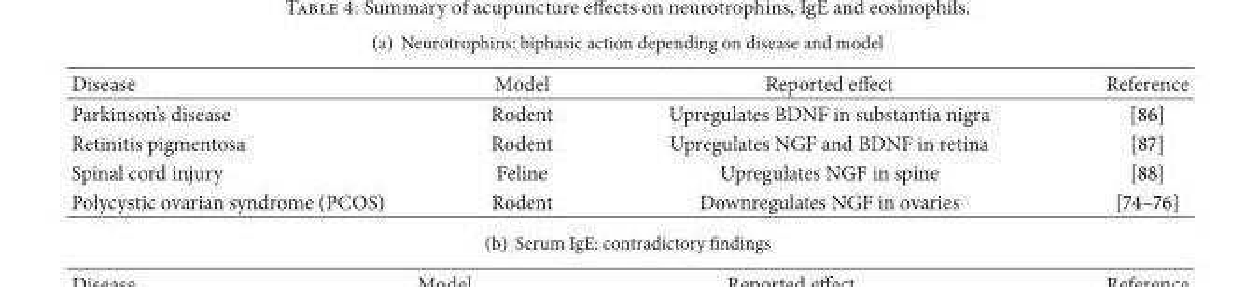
<table><thead><tr><td>Disease</td><td>Model</td><td>Reported effect</td><td>Reference</td></tr></thead><tbody><tr><td>Parkinson’s disease</td><td>Rodent</td><td>Upregulates BDNF in substantia nigra</td><td>[86]</td></tr><tr><td>Retinitis pigmentosa</td><td>Rodent</td><td>Upregulates NGF and BDNF in retina</td><td>[87]</td></tr><tr><td>Spinal cord injury</td><td>Feline</td><td>Upregulates NGF in spine</td><td>[88]</td></tr><tr><td>Polycystic ovarian syndrome (PCOS)</td><td>Rodent</td><td>Downregulates NGF in ovaries</td><td>[74–76]</td></tr></tbody></table>